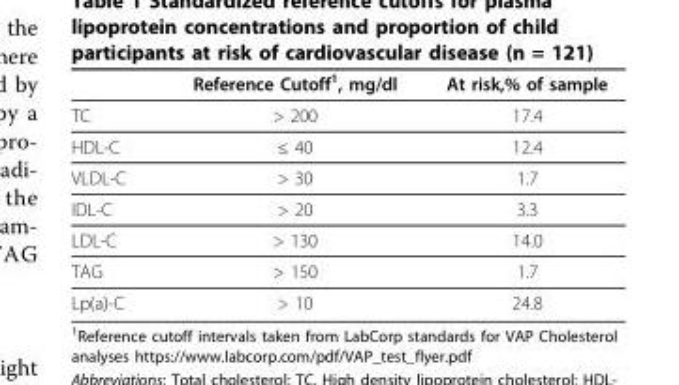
<table><thead><tr><td></td><td>Reference Cutoff1, mg/dl</td><td>At risk,% of sample</td></tr></thead><tbody><tr><td>TC</td><td>&gt; 200</td><td>17.4</td></tr><tr><td>HDL-C</td><td>≤ 40</td><td>12.4</td></tr><tr><td>VLDL-C</td><td>&gt; 30</td><td>1.7</td></tr><tr><td>IDL-C</td><td>&gt; 20</td><td>3.3</td></tr><tr><td>LDL-C</td><td>&gt; 130</td><td>14.0</td></tr><tr><td>TAG</td><td>&gt; 150</td><td>1.7</td></tr><tr><td>Lp(a)-C</td><td>&gt; 10</td><td>24.8</td></tr></tbody></table>